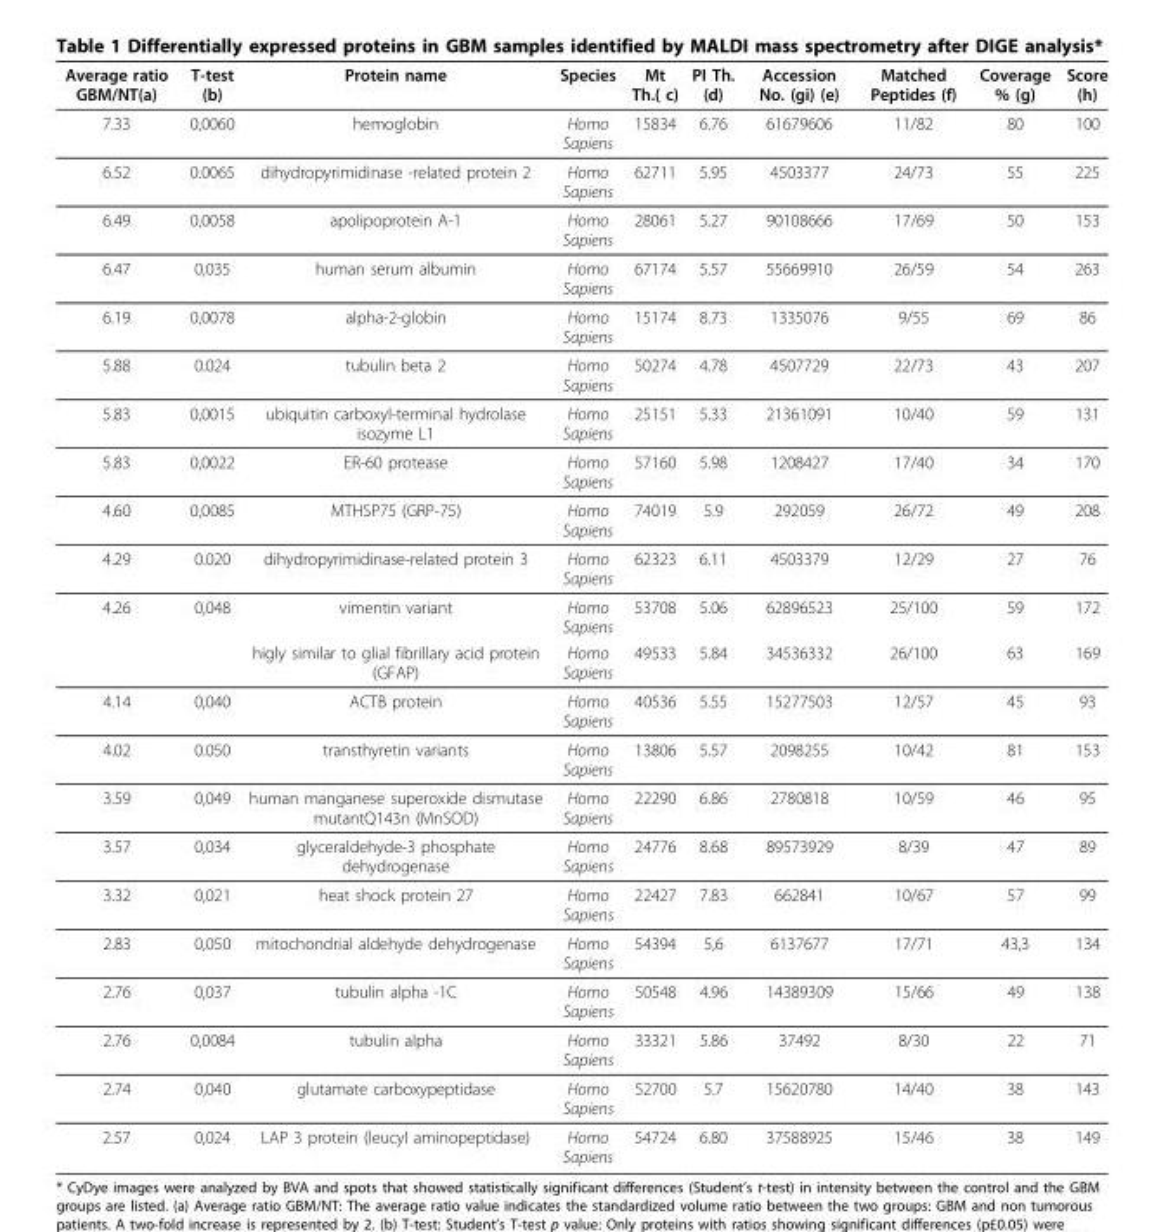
<table><thead><tr><td>Average ratio GBM/NT(a)</td><td>T-test (b)</td><td>Protein name</td><td>Species</td><td>Mt Th.( c)</td><td>PI Th. (d)</td><td>Accession No. (gi) (e)</td><td>Matched Peptides (f)</td><td>Coverage % (g)</td><td>Score (h)</td></tr></thead><tbody><tr><td>7.33</td><td>0,0060</td><td>hemoglobin</td><td>Homo Sapiens</td><td>15834</td><td>6.76</td><td>61679606</td><td>11/82</td><td>80</td><td>100</td></tr><tr><td>6.52</td><td>0.0065</td><td>dihydropyrimidinase -related protein 2</td><td>Homo Sapiens</td><td>62711</td><td>5.95</td><td>4503377</td><td>24/73</td><td>55</td><td>225</td></tr><tr><td>6.49</td><td>0,0058</td><td>apolipoprotein A-1</td><td>Homo Sapiens</td><td>28061</td><td>5.27</td><td>90108666</td><td>17/69</td><td>50</td><td>153</td></tr><tr><td>6.47</td><td>0,035</td><td>human serum albumin</td><td>Homo Sapiens</td><td>67174</td><td>5.57</td><td>55669910</td><td>26/59</td><td>54</td><td>263</td></tr><tr><td>6.19</td><td>0,0078</td><td>alpha-2-globin</td><td>Homo Sapiens</td><td>15174</td><td>8.73</td><td>1335076</td><td>9/55</td><td>69</td><td>86</td></tr><tr><td>5.88</td><td>0.024</td><td>tubulin beta 2</td><td>Homo Sapiens</td><td>50274</td><td>4.78</td><td>4507729</td><td>22/73</td><td>43</td><td>207</td></tr><tr><td>5.83</td><td>0,0015</td><td>ubiquitin carboxyl-terminal hydrolase isozyme L1</td><td>Homo Sapiens</td><td>25151</td><td>5.33</td><td>21361091</td><td>10/40</td><td>59</td><td>131</td></tr><tr><td>5.83</td><td>0,0022</td><td>ER-60 protease</td><td>Homo Sapiens</td><td>57160</td><td>5.98</td><td>1208427</td><td>17/40</td><td>34</td><td>170</td></tr><tr><td>4.60</td><td>0,0085</td><td>MTHSP75 (GRP-75)</td><td>Homo Sapiens</td><td>74019</td><td>5.9</td><td>292059</td><td>26/72</td><td>49</td><td>208</td></tr><tr><td>4.29</td><td>0.020</td><td>dihydropyrimidinase-related protein 3</td><td>Homo Sapiens</td><td>62323</td><td>6.11</td><td>4503379</td><td>12/29</td><td>27</td><td>76</td></tr><tr><td rowspan="2">4.26</td><td>0,048</td><td>vimentin variant</td><td>Homo Sapiens</td><td>53708</td><td>5.06</td><td>62896523</td><td>25/100</td><td>59</td><td>172</td></tr><tr><td></td><td>higly similar to glial fibrillary acid protein (GFAP)</td><td>Homo Sapiens</td><td>49533</td><td>5.84</td><td>34536332</td><td>26/100</td><td>63</td><td>169</td></tr><tr><td>4.14</td><td>0,040</td><td>ACTB protein</td><td>Homo Sapiens</td><td>40536</td><td>5.55</td><td>15277503</td><td>12/57</td><td>45</td><td>93</td></tr><tr><td>4.02</td><td>0.050</td><td>transthyretin variants</td><td>Homo Sapiens</td><td>13806</td><td>5.57</td><td>2098255</td><td>10/42</td><td>81</td><td>153</td></tr><tr><td>3.59</td><td>0,049</td><td>human manganese superoxide dismutase mutantQ143n (MnSOD)</td><td>Homo Sapiens</td><td>22290</td><td>6.86</td><td>2780818</td><td>10/59</td><td>46</td><td>95</td></tr><tr><td>3.57</td><td>0,034</td><td>glyceraldehyde-3 phosphate dehydrogenase</td><td>Homo Sapiens</td><td>24776</td><td>8.68</td><td>89573929</td><td>8/39</td><td>47</td><td>89</td></tr><tr><td>3.32</td><td>0,021</td><td>heat shock protein 27</td><td>Homo Sapiens</td><td>22427</td><td>7.83</td><td>662841</td><td>10/67</td><td>57</td><td>99</td></tr><tr><td>2.83</td><td>0,050</td><td>mitochondrial aldehyde dehydrogenase</td><td>Homo Sapiens</td><td>54394</td><td>5,6</td><td>6137677</td><td>17/71</td><td>43,3</td><td>134</td></tr><tr><td>2.76</td><td>0,037</td><td>tubulin alpha -1C</td><td>Homo Sapiens</td><td>50548</td><td>4.96</td><td>14389309</td><td>15/66</td><td>49</td><td>138</td></tr><tr><td>2.76</td><td>0,0084</td><td>tubulin alpha</td><td>Homo Sapiens</td><td>33321</td><td>5.86</td><td>37492</td><td>8/30</td><td>22</td><td>71</td></tr><tr><td>2.74</td><td>0,040</td><td>glutamate carboxypeptidase</td><td>Homo Sapiens</td><td>52700</td><td>5.7</td><td>15620780</td><td>14/40</td><td>38</td><td>143</td></tr><tr><td>2.57</td><td>0,024</td><td>LAP 3 protein (leucyl aminopeptidase)</td><td>Homo Sapiens</td><td>54724</td><td>6.80</td><td>37588925</td><td>15/46</td><td>38</td><td>149</td></tr></tbody></table>